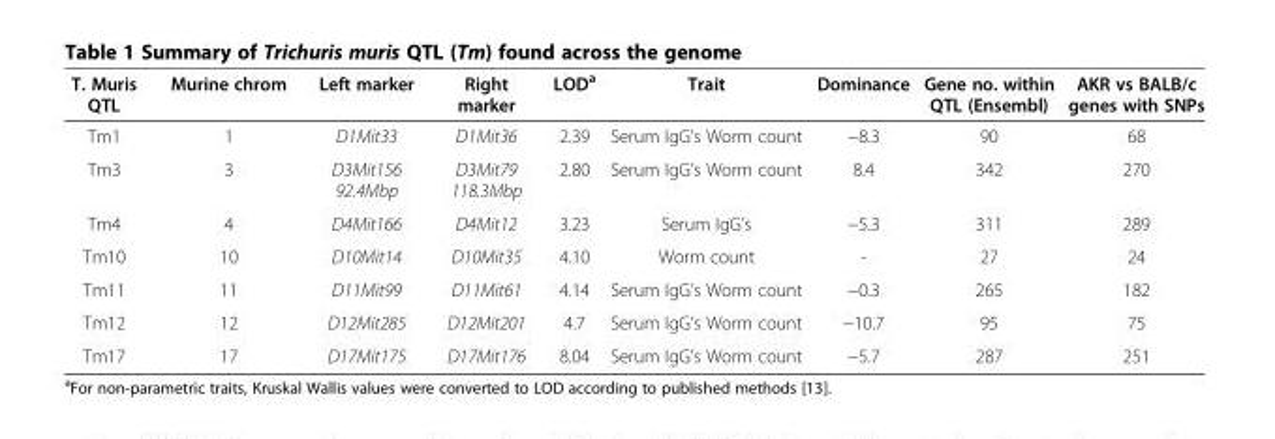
<table><thead><tr><td>T. Muris QTL</td><td>Murine chrom</td><td>Left marker</td><td>Right marker</td><td>LOD<sup>a</sup></td><td>Trait</td><td>Dominance</td><td>Gene no. within QTL (Ensembl)</td><td>AKR vs BALB/c genes with SNPs</td></tr></thead><tbody><tr><td>Tm1</td><td>1</td><td>D1Mit33</td><td>D1Mit36</td><td>2.39</td><td>Serum IgG’s Worm count</td><td>−8.3</td><td>90</td><td>68</td></tr><tr><td>Tm3</td><td>3</td><td>D3Mit156 92.4Mbp</td><td>D3Mit79 118.3Mbp</td><td>2.80</td><td>Serum IgG’s Worm count</td><td>8.4</td><td>342</td><td>270</td></tr><tr><td>Tm4</td><td>4</td><td>D4Mit166</td><td>D4Mit12</td><td>3.23</td><td>Serum IgG’s</td><td>−5.3</td><td>311</td><td>289</td></tr><tr><td>Tm10</td><td>10</td><td>D10Mit14</td><td>D10Mit35</td><td>4.10</td><td>Worm count</td><td>-</td><td>27</td><td>24</td></tr><tr><td>Tm11</td><td>11</td><td>D11Mit99</td><td>D11Mit61</td><td>4.14</td><td>Serum IgG’s Worm count</td><td>−0.3</td><td>265</td><td>182</td></tr><tr><td>Tm12</td><td>12</td><td>D12Mit285</td><td>D12Mit201</td><td>4.7</td><td>Serum IgG’s Worm count</td><td>−10.7</td><td>95</td><td>75</td></tr><tr><td>Tm17</td><td>17</td><td>D17Mit175</td><td>D17Mit176</td><td>8.04</td><td>Serum IgG’s Worm count</td><td>−5.7</td><td>287</td><td>251</td></tr></tbody></table>